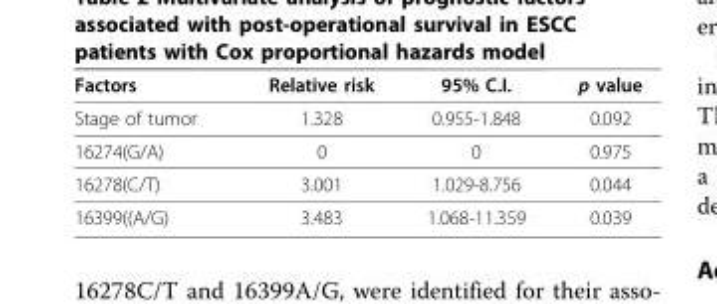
<table><thead><tr><td>Factors</td><td>Relative risk</td><td>95% C.I.</td><td>p value</td></tr></thead><tbody><tr><td>Stage of tumor</td><td>1.328</td><td>0.955-1.848</td><td>0.092</td></tr><tr><td>16274(G/A)</td><td>0</td><td>0</td><td>0.975</td></tr><tr><td>16278(C/T)</td><td>3.001</td><td>1.029-8.756</td><td>0.044</td></tr><tr><td>16399((A/G)</td><td>3.483</td><td>1.068-11.359</td><td>0.039</td></tr></tbody></table>